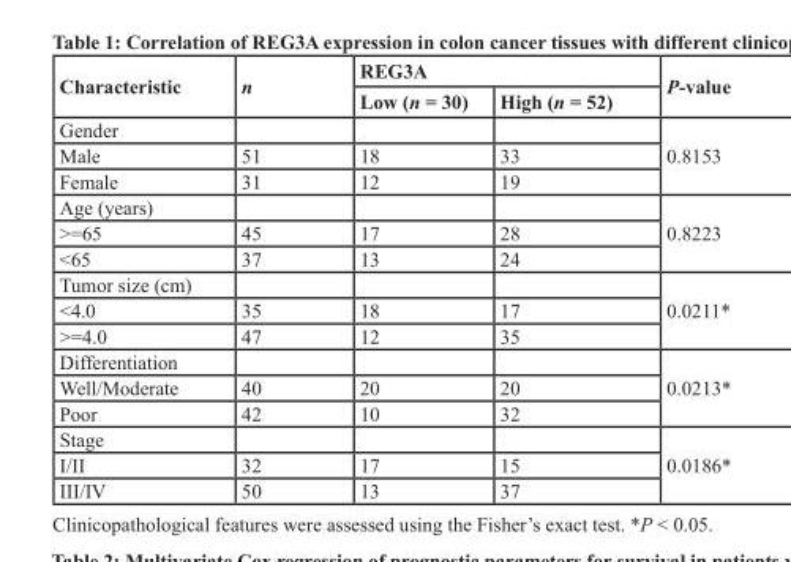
<table><thead><tr><td rowspan="2">Characteristic</td><td rowspan="2">n</td><td colspan="2">REG3A</td><td rowspan="2">P-value</td></tr><tr><td>Low (n = 30)</td><td>High (n = 52)</td></tr></thead><tbody><tr><td colspan="4">Gender</td><td rowspan="3">0.8153</td></tr><tr><td>Male</td><td>51</td><td>18</td><td>33</td></tr><tr><td>Female</td><td>31</td><td>12</td><td>19</td></tr><tr><td colspan="4">Age (years)</td><td rowspan="3">0.8223</td></tr><tr><td>&gt;=65</td><td>45</td><td>17</td><td>28</td></tr><tr><td>&lt;65</td><td>37</td><td>13</td><td>24</td></tr><tr><td colspan="4">Tumor size (cm)</td><td rowspan="3">0.0211*</td></tr><tr><td>&lt;4.0</td><td>35</td><td>18</td><td>17</td></tr><tr><td>&gt;=4.0</td><td>47</td><td>12</td><td>35</td></tr><tr><td colspan="4">Differentiation</td><td rowspan="3">0.0213*</td></tr><tr><td>Well/Moderate</td><td>40</td><td>20</td><td>20</td></tr><tr><td>Poor</td><td>42</td><td>10</td><td>32</td></tr><tr><td colspan="4">Stage</td><td rowspan="3">0.0186*</td></tr><tr><td>I/II</td><td>32</td><td>17</td><td>15</td></tr><tr><td>III/IV</td><td>50</td><td>13</td><td>37</td></tr></tbody></table>